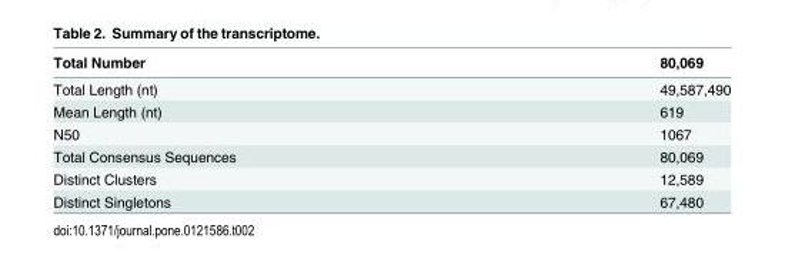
<table><thead><tr><td>Total Number</td><td>80,069</td></tr></thead><tbody><tr><td>Total Length (nt)</td><td>49,587,490</td></tr><tr><td>Mean Length (nt)</td><td>619</td></tr><tr><td>N50</td><td>1067</td></tr><tr><td>Total Consensus Sequences</td><td>80,069</td></tr><tr><td>Distinct Clusters</td><td>12,589</td></tr><tr><td>Distinct Singletons</td><td>67,480</td></tr></tbody></table>